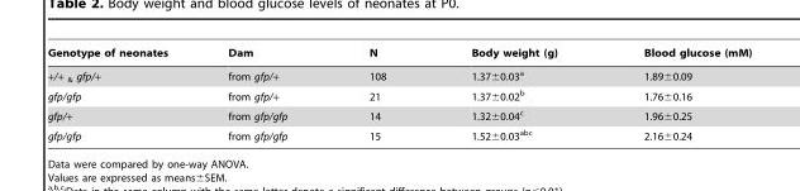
<table><thead><tr><td>Genotype of neonates</td><td>Dam</td><td>N</td><td>Body weight (g)</td><td>Blood glucose (mM)</td></tr></thead><tbody><tr><td>+/+ <sub>&amp;</sub> gfp/+</td><td>from gfp/+</td><td>108</td><td>1.37±0.03<sup>a</sup></td><td>1.89±0.09</td></tr><tr><td>gfp/gfp</td><td>from gfp/+</td><td>21</td><td>1.37±0.02<sup>b</sup></td><td>1.76±0.16</td></tr><tr><td>gfp/+</td><td>from gfp/gfp</td><td>14</td><td>1.32±0.04<sup>c</sup></td><td>1.96±0.25</td></tr><tr><td>gfp/gfp</td><td>from gfp/gfp</td><td>15</td><td>1.52±0.03<sup>abc</sup></td><td>2.16±0.24</td></tr></tbody></table>